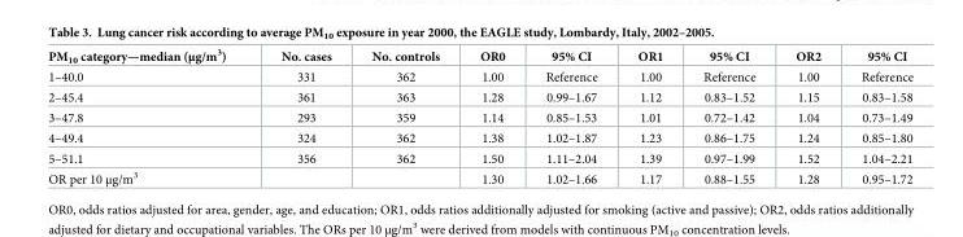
<table><thead><tr><td>PM<sub>10</sub> category—median (μg/m<sup>3</sup>)</td><td>No. cases</td><td>No. controls</td><td>OR0</td><td>95% CI</td><td>OR1</td><td>95% CI</td><td>OR2</td><td>95% CI</td></tr></thead><tbody><tr><td>1–40.0</td><td>331</td><td>362</td><td>1.00</td><td>Reference</td><td>1.00</td><td>Reference</td><td>1.00</td><td>Reference</td></tr><tr><td>2–45.4</td><td>361</td><td>363</td><td>1.28</td><td>0.99–1.67</td><td>1.12</td><td>0.83–1.52</td><td>1.15</td><td>0.83–1.58</td></tr><tr><td>3–47.8</td><td>293</td><td>359</td><td>1.14</td><td>0.85–1.53</td><td>1.01</td><td>0.72–1.42</td><td>1.04</td><td>0.73–1.49</td></tr><tr><td>4–49.4</td><td>324</td><td>362</td><td>1.38</td><td>1.02–1.87</td><td>1.23</td><td>0.86–1.75</td><td>1.24</td><td>0.85–1.80</td></tr><tr><td>5–51.1</td><td>356</td><td>362</td><td>1.50</td><td>1.11–2.04</td><td>1.39</td><td>0.97–1.99</td><td>1.52</td><td>1.04–2.21</td></tr><tr><td>OR per 10 μg/m<sup>3</sup></td><td></td><td></td><td>1.30</td><td>1.02–1.66</td><td>1.17</td><td>0.88–1.55</td><td>1.28</td><td>0.95–1.72</td></tr></tbody></table>